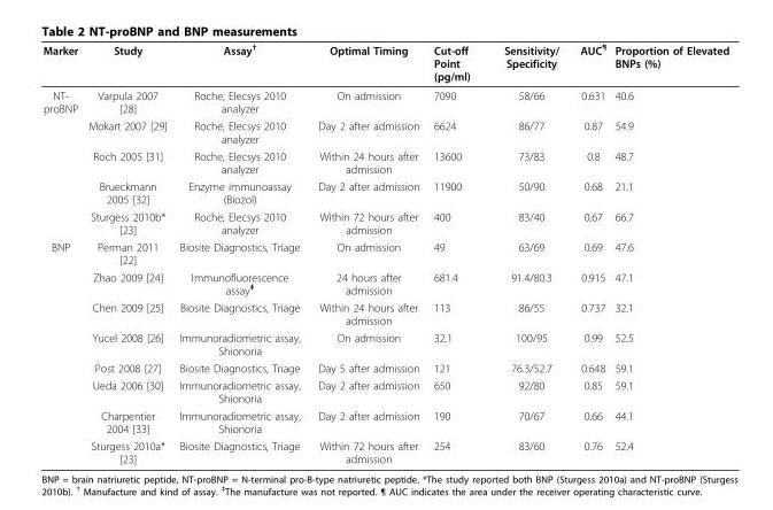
<table><thead><tr><td>Marker</td><td>Study</td><td>Assay<sup>†</sup></td><td>Optimal Timing</td><td>Cut-off Point (pg/ml)</td><td>Sensitivity/ Specificity</td><td>AUC<sup>¶</sup></td><td>Proportion of Elevated BNPs (%)</td></tr></thead><tbody><tr><td rowspan="5">NT- proBNP</td><td>Varpula 2007 [28]</td><td>Roche, Elecsys 2010 analyzer</td><td>On admission</td><td>7090</td><td>58/66</td><td>0.631</td><td>40.6</td></tr><tr><td>Mokart 2007 [29]</td><td>Roche, Elecsys 2010 analyzer</td><td>Day 2 after admission</td><td>6624</td><td>86/77</td><td>0.87</td><td>54.9</td></tr><tr><td>Roch 2005 [31]</td><td>Roche, Elecsys 2010 analyzer</td><td>Within 24 hours after admission</td><td>13600</td><td>73/83</td><td>0.8</td><td>48.7</td></tr><tr><td>Brueckmann 2005 [32]</td><td>Enzyme immunoassay (Biozol)</td><td>Day 2 after admission</td><td>11900</td><td>50/90</td><td>0.68</td><td>21.1</td></tr><tr><td>Sturgess 2010b* [23]</td><td>Roche, Elecsys 2010 analyzer</td><td>Within 72 hours after admission</td><td>400</td><td>83/40</td><td>0.67</td><td>66.7</td></tr><tr><td rowspan="8">BNP</td><td>Perman 2011 [22]</td><td>Biosite Diagnostics, Triage</td><td>On admission</td><td>49</td><td>63/69</td><td>0.69</td><td>47.6</td></tr><tr><td>Zhao 2009 [24]</td><td>Immunofluorescence assay<sup>‡</sup></td><td>24 hours after admission</td><td>681.4</td><td>91.4/80.3</td><td>0.915</td><td>47.1</td></tr><tr><td>Chen 2009 [25]</td><td>Biosite Diagnostics, Triage</td><td>Within 24 hours after admission</td><td>113</td><td>86/55</td><td>0.737</td><td>32.1</td></tr><tr><td>Yucel 2008 [26]</td><td>Immunoradiometric assay, Shionoria</td><td>On admission</td><td>32.1</td><td>100/95</td><td>0.99</td><td>52.5</td></tr><tr><td>Post 2008 [27]</td><td>Biosite Diagnostics, Triage</td><td>Day 5 after admission</td><td>121</td><td>76.3/52.7</td><td>0.648</td><td>59.1</td></tr><tr><td>Ueda 2006 [30]</td><td>Immunoradiometric assay, Shionoria</td><td>Day 2 after admission</td><td>650</td><td>92/80</td><td>0.85</td><td>59.1</td></tr><tr><td>Charpentier 2004 [33]</td><td>Immunoradiometric assay, Shionoria</td><td>Day 2 after admission</td><td>190</td><td>70/67</td><td>0.66</td><td>44.1</td></tr><tr><td>Sturgess 2010a* [23]</td><td>Biosite Diagnostics, Triage</td><td>Within 72 hours after admission</td><td>254</td><td>83/60</td><td>0.76</td><td>52.4</td></tr></tbody></table>